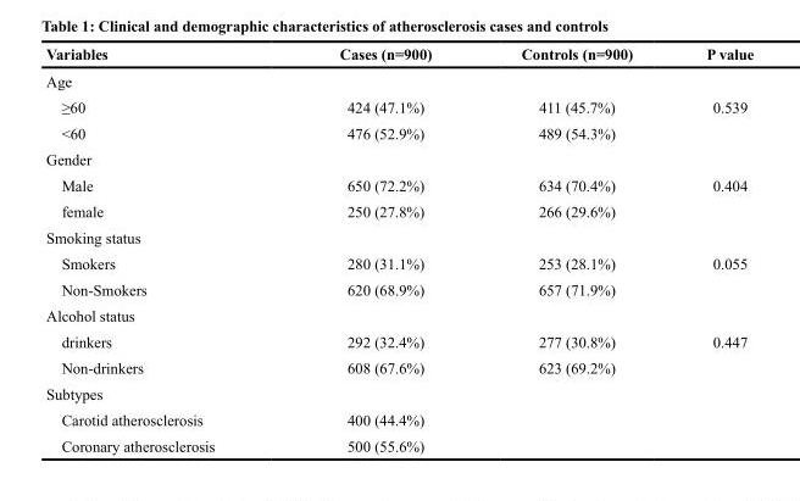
<table><thead><tr><td>Variables</td><td>Cases (n=900)</td><td>Controls (n=900)</td><td>P value</td></tr></thead><tbody><tr><td colspan="4">Age</td></tr><tr><td>≥60</td><td>424 (47.1%)</td><td>411 (45.7%)</td><td>0.539</td></tr><tr><td>&lt;60</td><td>476 (52.9%)</td><td>489 (54.3%)</td><td></td></tr><tr><td colspan="4">Gender</td></tr><tr><td>Male</td><td>650 (72.2%)</td><td>634 (70.4%)</td><td>0.404</td></tr><tr><td>female</td><td>250 (27.8%)</td><td>266 (29.6%)</td><td></td></tr><tr><td colspan="4">Smoking status</td></tr><tr><td>Smokers</td><td>280 (31.1%)</td><td>253 (28.1%)</td><td>0.055</td></tr><tr><td>Non-Smokers</td><td>620 (68.9%)</td><td>657 (71.9%)</td><td></td></tr><tr><td colspan="4">Alcohol status</td></tr><tr><td>drinkers</td><td>292 (32.4%)</td><td>277 (30.8%)</td><td>0.447</td></tr><tr><td>Non-drinkers</td><td>608 (67.6%)</td><td>623 (69.2%)</td><td></td></tr><tr><td colspan="4">Subtypes</td></tr><tr><td>Carotid atherosclerosis</td><td>400 (44.4%)</td><td></td><td></td></tr><tr><td>Coronary atherosclerosis</td><td>500 (55.6%)</td><td></td><td></td></tr></tbody></table>